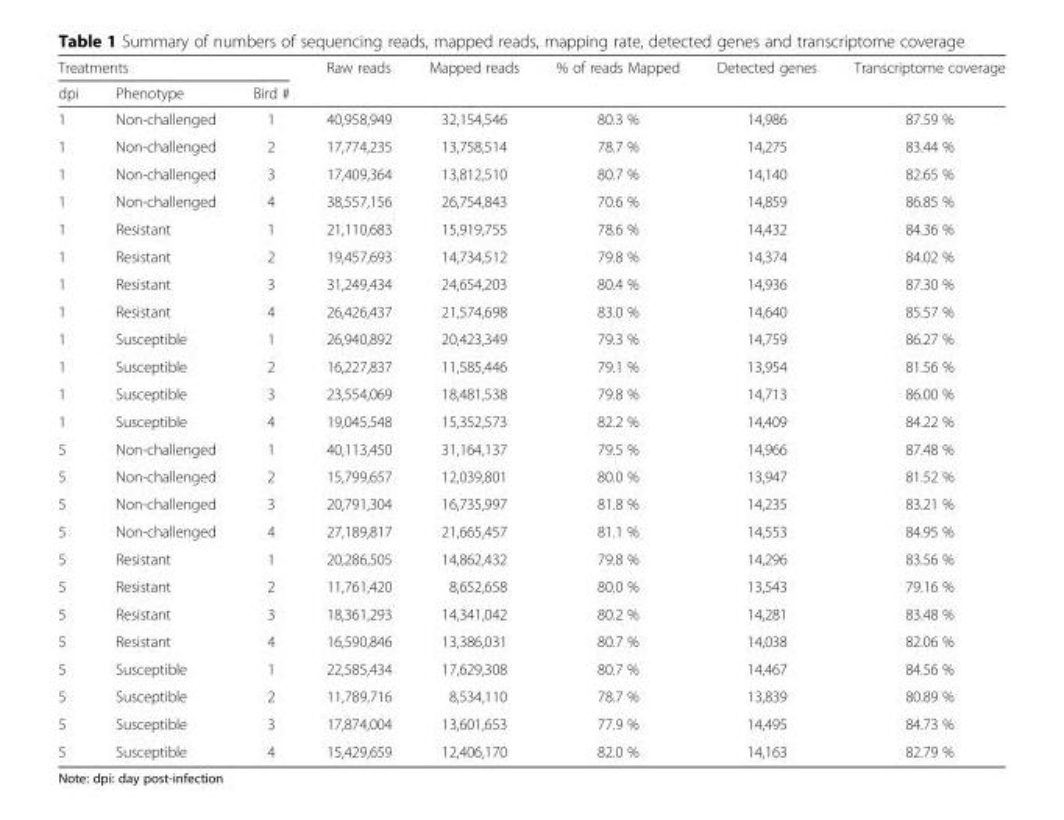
<table><thead><tr><td colspan="3">Treatments</td><td rowspan="2">Raw reads</td><td rowspan="2">Mapped reads</td><td rowspan="2">% of reads Mapped</td><td rowspan="2">Detected genes</td><td rowspan="2">Transcriptome coverage</td></tr><tr><td>dpi</td><td>Phenotype</td><td>Bird #</td></tr></thead><tbody><tr><td>1</td><td>Non-challenged</td><td>1</td><td>40,958,949</td><td>32,154,546</td><td>80.3 %</td><td>14,986</td><td>87.59 %</td></tr><tr><td>1</td><td>Non-challenged</td><td>2</td><td>17,774,235</td><td>13,758,514</td><td>78.7 %</td><td>14,275</td><td>83.44 %</td></tr><tr><td>1</td><td>Non-challenged</td><td>3</td><td>17,409,364</td><td>13,812,510</td><td>80.7 %</td><td>14,140</td><td>82.65 %</td></tr><tr><td>1</td><td>Non-challenged</td><td>4</td><td>38,557,156</td><td>26,754,843</td><td>70.6 %</td><td>14,859</td><td>86.85 %</td></tr><tr><td>1</td><td>Resistant</td><td>1</td><td>21,110,683</td><td>15,919,755</td><td>78.6 %</td><td>14,432</td><td>84.36 %</td></tr><tr><td>1</td><td>Resistant</td><td>2</td><td>19,457,693</td><td>14,734,512</td><td>79.8 %</td><td>14,374</td><td>84.02 %</td></tr><tr><td>1</td><td>Resistant</td><td>3</td><td>31,249,434</td><td>24,654,203</td><td>80.4 %</td><td>14,936</td><td>87.30 %</td></tr><tr><td>1</td><td>Resistant</td><td>4</td><td>26,426,437</td><td>21,574,698</td><td>83.0 %</td><td>14,640</td><td>85.57 %</td></tr><tr><td>1</td><td>Susceptible</td><td>1</td><td>26,940,892</td><td>20,423,349</td><td>79.3 %</td><td>14,759</td><td>86.27 %</td></tr><tr><td>1</td><td>Susceptible</td><td>2</td><td>16,227,837</td><td>11,585,446</td><td>79.1 %</td><td>13,954</td><td>81.56 %</td></tr><tr><td>1</td><td>Susceptible</td><td>3</td><td>23,554,069</td><td>18,481,538</td><td>79.8 %</td><td>14,713</td><td>86.00 %</td></tr><tr><td>1</td><td>Susceptible</td><td>4</td><td>19,045,548</td><td>15,352,573</td><td>82.2 %</td><td>14,409</td><td>84.22 %</td></tr><tr><td>5</td><td>Non-challenged</td><td>1</td><td>40,113,450</td><td>31,164,137</td><td>79.5 %</td><td>14,966</td><td>87.48 %</td></tr><tr><td>5</td><td>Non-challenged</td><td>2</td><td>15,799,657</td><td>12,039,801</td><td>80.0 %</td><td>13,947</td><td>81.52 %</td></tr><tr><td>5</td><td>Non-challenged</td><td>3</td><td>20,791,304</td><td>16,735,997</td><td>81.8 %</td><td>14,235</td><td>83.21 %</td></tr><tr><td>5</td><td>Non-challenged</td><td>4</td><td>27,189,817</td><td>21,665,457</td><td>81.1 %</td><td>14,553</td><td>84.95 %</td></tr><tr><td>5</td><td>Resistant</td><td>1</td><td>20,286,505</td><td>14,862,432</td><td>79.8 %</td><td>14,296</td><td>83.56 %</td></tr><tr><td>5</td><td>Resistant</td><td>2</td><td>11,761,420</td><td>8,652,658</td><td>80.0 %</td><td>13,543</td><td>79.16 %</td></tr><tr><td>5</td><td>Resistant</td><td>3</td><td>18,361,293</td><td>14,341,042</td><td>80.2 %</td><td>14,281</td><td>83.48 %</td></tr><tr><td>5</td><td>Resistant</td><td>4</td><td>16,590,846</td><td>13,386,031</td><td>80.7 %</td><td>14,038</td><td>82.06 %</td></tr><tr><td>5</td><td>Susceptible</td><td>1</td><td>22,585,434</td><td>17,629,308</td><td>80.7 %</td><td>14,467</td><td>84.56 %</td></tr><tr><td>5</td><td>Susceptible</td><td>2</td><td>11,789,716</td><td>8,534,110</td><td>78.7 %</td><td>13,839</td><td>80.89 %</td></tr><tr><td>5</td><td>Susceptible</td><td>3</td><td>17,874,004</td><td>13,601,653</td><td>77.9 %</td><td>14,495</td><td>84.73 %</td></tr><tr><td>5</td><td>Susceptible</td><td>4</td><td>15,429,659</td><td>12,406,170</td><td>82.0 %</td><td>14,163</td><td>82.79 %</td></tr></tbody></table>